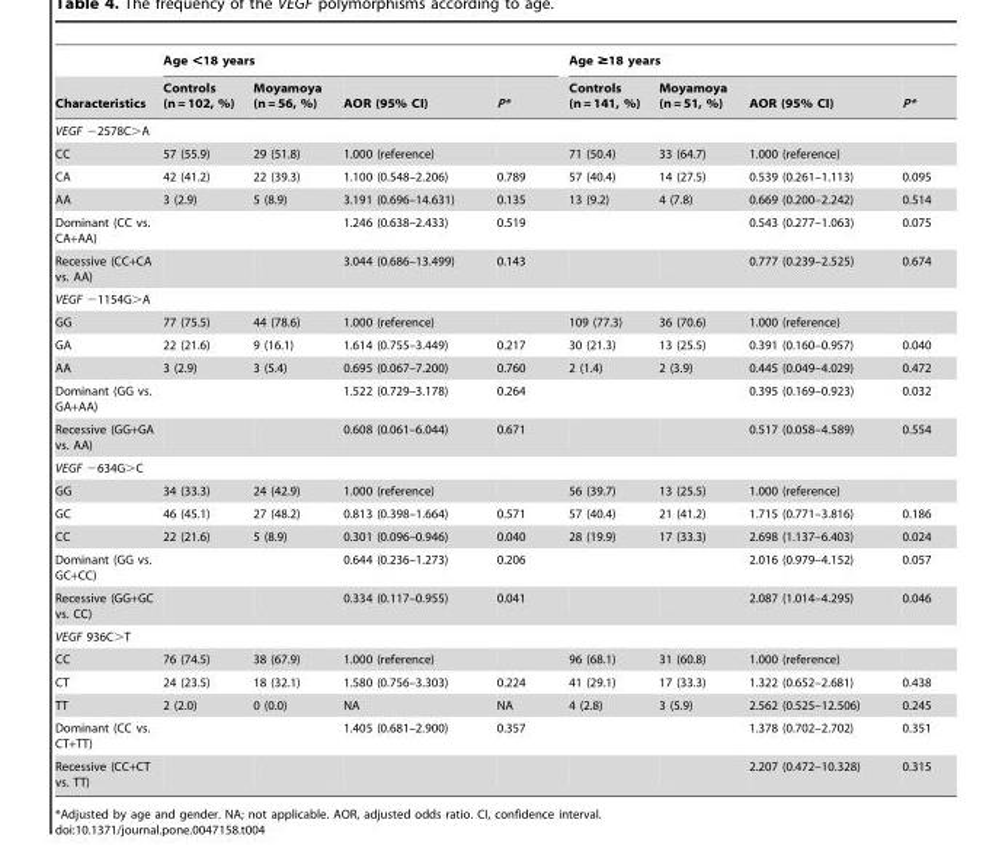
<table><thead><tr><td rowspan="2">Characteristics</td><td colspan="4">Age &lt;18 years</td><td colspan="4">Age ≥18 years</td></tr><tr><td>Controls (n = 102, %)</td><td>Moyamoya (n = 56, %)</td><td>AOR (95% CI)</td><td>P*</td><td>Controls (n = 141, %)</td><td>Moyamoya (n = 51, %)</td><td>AOR (95% CI)</td><td>P*</td></tr></thead><tbody><tr><td colspan="9">VEGF −2578C&gt;A</td></tr><tr><td>CC</td><td>57 (55.9)</td><td>29 (51.8)</td><td>1.000 (reference)</td><td></td><td>71 (50.4)</td><td>33 (64.7)</td><td>1.000 (reference)</td><td></td></tr><tr><td>CA</td><td>42 (41.2)</td><td>22 (39.3)</td><td>1.100 (0.548–2.206)</td><td>0.789</td><td>57 (40.4)</td><td>14 (27.5)</td><td>0.539 (0.261–1.113)</td><td>0.095</td></tr><tr><td>AA</td><td>3 (2.9)</td><td>5 (8.9)</td><td>3.191 (0.696–14.631)</td><td>0.135</td><td>13 (9.2)</td><td>4 (7.8)</td><td>0.669 (0.200–2.242)</td><td>0.514</td></tr><tr><td>Dominant (CC vs. CA+AA)</td><td></td><td></td><td>1.246 (0.638–2.433)</td><td>0.519</td><td></td><td></td><td>0.543 (0.277–1.063)</td><td>0.075</td></tr><tr><td>Recessive (CC+CA vs. AA)</td><td></td><td></td><td>3.044 (0.686–13.499)</td><td>0.143</td><td></td><td></td><td>0.777 (0.239–2.525)</td><td>0.674</td></tr><tr><td colspan="9">VEGF −1154G&gt;A</td></tr><tr><td>GG</td><td>77 (75.5)</td><td>44 (78.6)</td><td>1.000 (reference)</td><td></td><td>109 (77.3)</td><td>36 (70.6)</td><td>1.000 (reference)</td><td></td></tr><tr><td>GA</td><td>22 (21.6)</td><td>9 (16.1)</td><td>1.614 (0.755–3.449)</td><td>0.217</td><td>30 (21.3)</td><td>13 (25.5)</td><td>0.391 (0.160–0.957)</td><td>0.040</td></tr><tr><td>AA</td><td>3 (2.9)</td><td>3 (5.4)</td><td>0.695 (0.067–7.200)</td><td>0.760</td><td>2 (1.4)</td><td>2 (3.9)</td><td>0.445 (0.049–4.029)</td><td>0.472</td></tr><tr><td>Dominant (GG vs. GA+AA)</td><td></td><td></td><td>1.522 (0.729–3.178)</td><td>0.264</td><td></td><td></td><td>0.395 (0.169–0.923)</td><td>0.032</td></tr><tr><td>Recessive (GG+GA vs. AA)</td><td></td><td></td><td>0.608 (0.061–6.044)</td><td>0.671</td><td></td><td></td><td>0.517 (0.058–4.589)</td><td>0.554</td></tr><tr><td colspan="9">VEGF −634G&gt;C</td></tr><tr><td>GG</td><td>34 (33.3)</td><td>24 (42.9)</td><td>1.000 (reference)</td><td></td><td>56 (39.7)</td><td>13 (25.5)</td><td>1.000 (reference)</td><td></td></tr><tr><td>GC</td><td>46 (45.1)</td><td>27 (48.2)</td><td>0.813 (0.398–1.664)</td><td>0.571</td><td>57 (40.4)</td><td>21 (41.2)</td><td>1.715 (0.771–3.816)</td><td>0.186</td></tr><tr><td>CC</td><td>22 (21.6)</td><td>5 (8.9)</td><td>0.301 (0.096–0.946)</td><td>0.040</td><td>28 (19.9)</td><td>17 (33.3)</td><td>2.698 (1.137–6.403)</td><td>0.024</td></tr><tr><td>Dominant (GG vs. GC+CC)</td><td></td><td></td><td>0.644 (0.236–1.273)</td><td>0.206</td><td></td><td></td><td>2.016 (0.979–4.152)</td><td>0.057</td></tr><tr><td>Recessive (GG+GC vs. CC)</td><td></td><td></td><td>0.334 (0.117–0.955)</td><td>0.041</td><td></td><td></td><td>2.087 (1.014–4.295)</td><td>0.046</td></tr><tr><td colspan="9">VEGF 936C&gt;T</td></tr><tr><td>CC</td><td>76 (74.5)</td><td>38 (67.9)</td><td>1.000 (reference)</td><td></td><td>96 (68.1)</td><td>31 (60.8)</td><td>1.000 (reference)</td><td></td></tr><tr><td>CT</td><td>24 (23.5)</td><td>18 (32.1)</td><td>1.580 (0.756–3.303)</td><td>0.224</td><td>41 (29.1)</td><td>17 (33.3)</td><td>1.322 (0.652–2.681)</td><td>0.438</td></tr><tr><td>TT</td><td>2 (2.0)</td><td>0 (0.0)</td><td>NA</td><td>NA</td><td>4 (2.8)</td><td>3 (5.9)</td><td>2.562 (0.525–12.506)</td><td>0.245</td></tr><tr><td>Dominant (CC vs. CT+TT)</td><td></td><td></td><td>1.405 (0.681–2.900)</td><td>0.357</td><td></td><td></td><td>1.378 (0.702–2.702)</td><td>0.351</td></tr><tr><td>Recessive (CC+CT vs. TT)</td><td></td><td></td><td></td><td></td><td></td><td></td><td>2.207 (0.472–10.328)</td><td>0.315</td></tr></tbody></table>